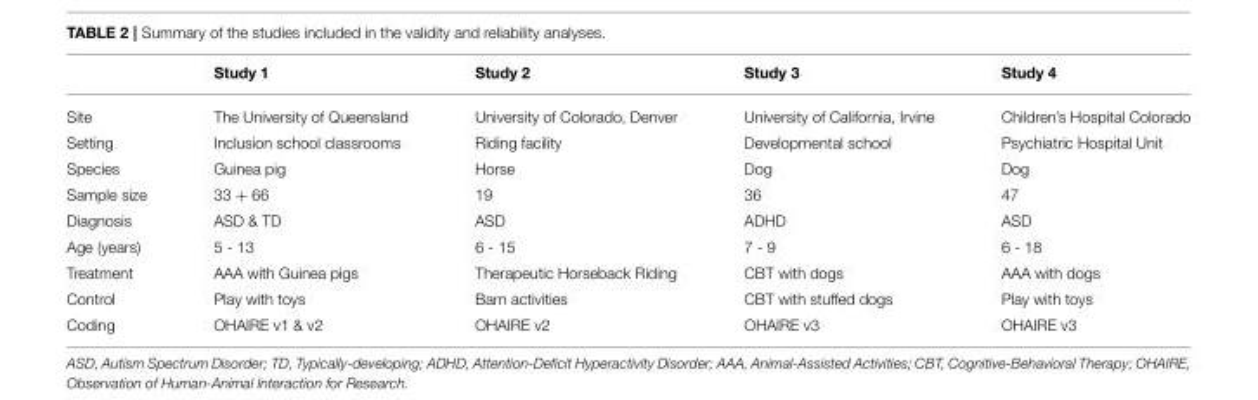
<table><thead><tr><td></td><td>Study 1</td><td>Study 2</td><td>Study 3</td><td>Study 4</td></tr></thead><tbody><tr><td>Site</td><td>The University of Queensland</td><td>University of Colorado, Denver</td><td>University of California, Irvine</td><td>Children’s Hospital Colorado</td></tr><tr><td>Setting</td><td>Inclusion school classrooms</td><td>Riding facility</td><td>Developmental school</td><td>Psychiatric Hospital Unit</td></tr><tr><td>Species</td><td>Guinea pig</td><td>Horse</td><td>Dog</td><td>Dog</td></tr><tr><td>Sample size</td><td>33 + 66</td><td>19</td><td>36</td><td>47</td></tr><tr><td>Diagnosis</td><td>ASD &amp; TD</td><td>ASD</td><td>ADHD</td><td>ASD</td></tr><tr><td>Age (years)</td><td>5 - 13</td><td>6 - 15</td><td>7 - 9</td><td>6 - 18</td></tr><tr><td>Treatment</td><td>AAA with Guinea pigs</td><td>Therapeutic Horseback Riding</td><td>CBT with dogs</td><td>AAA with dogs</td></tr><tr><td>Control</td><td>Play with toys</td><td>Barn activities</td><td>CBT with stuffed dogs</td><td>Play with toys</td></tr><tr><td>Coding</td><td>OHAIRE v1 &amp; v2</td><td>OHAIRE v2</td><td>OHAIRE v3</td><td>OHAIRE v3</td></tr></tbody></table>